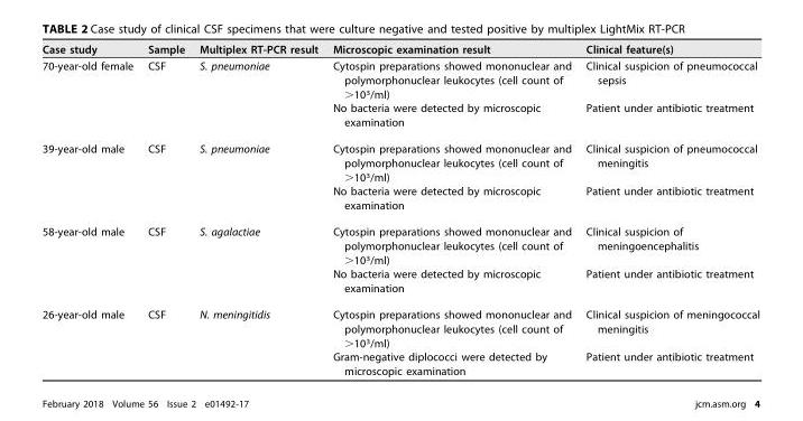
<table><thead><tr><td>Case study</td><td>Sample</td><td>Multiplex RT-PCR result</td><td>Microscopic examination result</td><td>Clinical feature(s)</td></tr></thead><tbody><tr><td rowspan="2">70-year-old female</td><td>CSF</td><td>S. pneumoniae</td><td>Cytospin preparations showed mononuclear and polymorphonuclear leukocytes (cell count of &gt;10<sup>3</sup>/ml)</td><td>Clinical suspicion of pneumococcal sepsis</td></tr><tr><td></td><td></td><td>No bacteria were detected by microscopic examination</td><td>Patient under antibiotic treatment</td></tr><tr><td rowspan="2">39-year-old male</td><td>CSF</td><td>S. pneumoniae</td><td>Cytospin preparations showed mononuclear and polymorphonuclear leukocytes (cell count of &gt;10<sup>3</sup>/ml)</td><td>Clinical suspicion of pneumococcal meningitis</td></tr><tr><td></td><td></td><td>No bacteria were detected by microscopic examination</td><td>Patient under antibiotic treatment</td></tr><tr><td rowspan="2">58-year-old male</td><td>CSF</td><td>S. agalactiae</td><td>Cytospin preparations showed mononuclear and polymorphonuclear leukocytes (cell count of &gt;10<sup>3</sup>/ml)</td><td>Clinical suspicion of meningoencephalitis</td></tr><tr><td></td><td></td><td>No bacteria were detected by microscopic examination</td><td>Patient under antibiotic treatment</td></tr><tr><td rowspan="2">26-year-old male</td><td>CSF</td><td>N. meningitidis</td><td>Cytospin preparations showed mononuclear and polymorphonuclear leukocytes (cell count of &gt;10<sup>3</sup>/ml)</td><td>Clinical suspicion of meningococcal meningitis</td></tr><tr><td></td><td></td><td>Gram-negative diplococci were detected by microscopic examination</td><td>Patient under antibiotic treatment</td></tr></tbody></table>